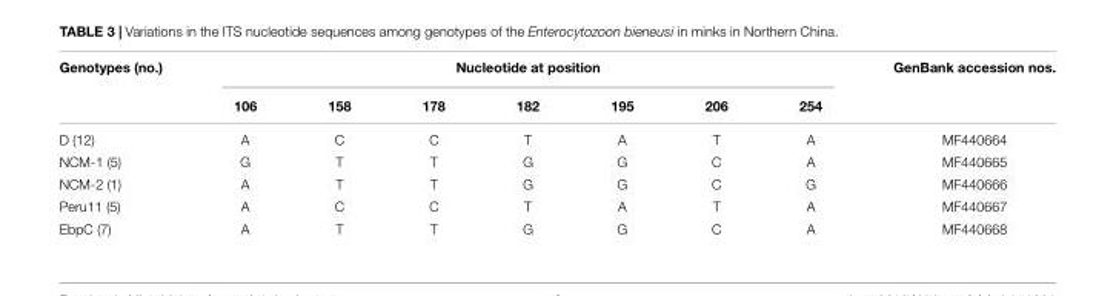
<table><thead><tr><td rowspan="2">Genotypes (no.)</td><td colspan="7">Nucleotide at position</td><td rowspan="2">GenBank accession nos.</td></tr><tr><td>106</td><td>158</td><td>178</td><td>182</td><td>195</td><td>206</td><td>254</td></tr></thead><tbody><tr><td>D (12)</td><td>A</td><td>C</td><td>C</td><td>T</td><td>A</td><td>T</td><td>A</td><td>MF440664</td></tr><tr><td>NCM-1 (5)</td><td>G</td><td>T</td><td>T</td><td>G</td><td>G</td><td>C</td><td>A</td><td>MF440665</td></tr><tr><td>NCM-2 (1)</td><td>A</td><td>T</td><td>T</td><td>G</td><td>G</td><td>C</td><td>G</td><td>MF440666</td></tr><tr><td>Peru11 (5)</td><td>A</td><td>C</td><td>C</td><td>T</td><td>A</td><td>T</td><td>A</td><td>MF440667</td></tr><tr><td>EbpC (7)</td><td>A</td><td>T</td><td>T</td><td>G</td><td>G</td><td>C</td><td>A</td><td>MF440668</td></tr></tbody></table>